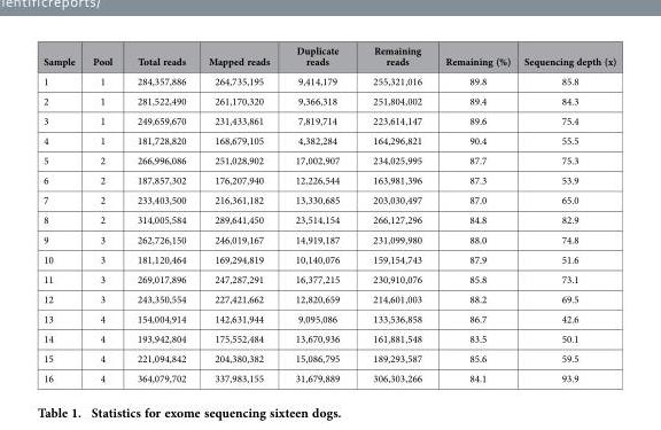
<table><thead><tr><td>Sample</td><td>Pool</td><td>Total reads</td><td>Mapped reads</td><td>Duplicate reads</td><td>Remaining reads</td><td>Remaining (%)</td><td>Sequencing depth (x)</td></tr></thead><tbody><tr><td>1</td><td>1</td><td>284,357,886</td><td>264,735,195</td><td>9,414,179</td><td>255,321,016</td><td>89.8</td><td>85.8</td></tr><tr><td>2</td><td>1</td><td>281,522,490</td><td>261,170,320</td><td>9,366,318</td><td>251,804,002</td><td>89.4</td><td>84.3</td></tr><tr><td>3</td><td>1</td><td>249,659,670</td><td>231,433,861</td><td>7,819,714</td><td>223,614,147</td><td>89.6</td><td>75.4</td></tr><tr><td>4</td><td>1</td><td>181,728,820</td><td>168,679,105</td><td>4,382,284</td><td>164,296,821</td><td>90.4</td><td>55.5</td></tr><tr><td>5</td><td>2</td><td>266,996,086</td><td>251,028,902</td><td>17,002,907</td><td>234,025,995</td><td>87.7</td><td>75.3</td></tr><tr><td>6</td><td>2</td><td>187,857,302</td><td>176,207,940</td><td>12,226,544</td><td>163,981,396</td><td>87.3</td><td>53.9</td></tr><tr><td>7</td><td>2</td><td>233,403,500</td><td>216,361,182</td><td>13,330,685</td><td>203,030,497</td><td>87.0</td><td>65.0</td></tr><tr><td>8</td><td>2</td><td>314,005,584</td><td>289,641,450</td><td>23,514,154</td><td>266,127,296</td><td>84.8</td><td>82.9</td></tr><tr><td>9</td><td>3</td><td>262,726,150</td><td>246,019,167</td><td>14,919,187</td><td>231,099,980</td><td>88.0</td><td>74.8</td></tr><tr><td>10</td><td>3</td><td>181,120,464</td><td>169,294,819</td><td>10,140,076</td><td>159,154,743</td><td>87.9</td><td>51.6</td></tr><tr><td>11</td><td>3</td><td>269,017,896</td><td>247,287,291</td><td>16,377,215</td><td>230,910,076</td><td>85.8</td><td>73.1</td></tr><tr><td>12</td><td>3</td><td>243,350,554</td><td>227,421,662</td><td>12,820,659</td><td>214,601,003</td><td>88.2</td><td>69.5</td></tr><tr><td>13</td><td>4</td><td>154,004,914</td><td>142,631,944</td><td>9,095,086</td><td>133,536,858</td><td>86.7</td><td>42.6</td></tr><tr><td>14</td><td>4</td><td>193,942,804</td><td>175,552,484</td><td>13,670,936</td><td>161,881,548</td><td>83.5</td><td>50.1</td></tr><tr><td>15</td><td>4</td><td>221,094,842</td><td>204,380,382</td><td>15,086,795</td><td>189,293,587</td><td>85.6</td><td>59.5</td></tr><tr><td>16</td><td>4</td><td>364,079,702</td><td>337,983,155</td><td>31,679,889</td><td>306,303,266</td><td>84.1</td><td>93.9</td></tr></tbody></table>